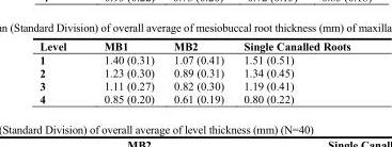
<table><thead><tr><td>Level</td><td>MB1</td><td>MB2</td><td>Single Canalled Roots</td></tr></thead><tbody><tr><td>1</td><td>1.40 (0.31)</td><td>1.07 (0.41)</td><td>1.51 (0.51)</td></tr><tr><td>2</td><td>1.23 (0.30)</td><td>0.89 (0.31)</td><td>1.34 (0.45)</td></tr><tr><td>3</td><td>1.11 (0.27)</td><td>0.82 (0.30)</td><td>1.19 (0.41)</td></tr><tr><td>4</td><td>0.85 (0.20)</td><td>0.61 (0.19)</td><td>0.80 (0.22)</td></tr></tbody></table>